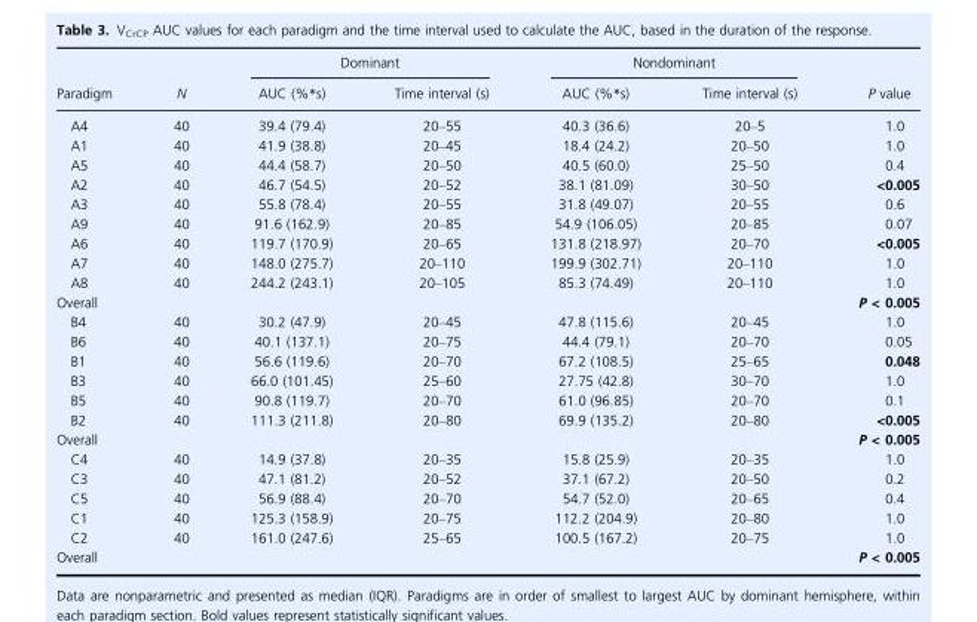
<table><thead><tr><td rowspan="2">Paradigm</td><td rowspan="2">N</td><td colspan="2">Dominant</td><td colspan="2">Nondominant</td><td rowspan="2">P value</td></tr><tr><td>AUC (%*s)</td><td>Time interval (s)</td><td>AUC (%*s)</td><td>Time interval (s)</td></tr></thead><tbody><tr><td>A4</td><td>40</td><td>39.4 (79.4)</td><td>20–55</td><td>40.3 (36.6)</td><td>20–5</td><td>1.0</td></tr><tr><td>A1</td><td>40</td><td>41.9 (38.8)</td><td>20–45</td><td>18.4 (24.2)</td><td>20–50</td><td>1.0</td></tr><tr><td>A5</td><td>40</td><td>44.4 (58.7)</td><td>20–50</td><td>40.5 (60.0)</td><td>25–50</td><td>0.4</td></tr><tr><td>A2</td><td>40</td><td>46.7 (54.5)</td><td>20–52</td><td>38.1 (81.09)</td><td>30–50</td><td>&lt;0.005</td></tr><tr><td>A3</td><td>40</td><td>55.8 (78.4)</td><td>20–55</td><td>31.8 (49.07)</td><td>20–55</td><td>0.6</td></tr><tr><td>A9</td><td>40</td><td>91.6 (162.9)</td><td>20–85</td><td>54.9 (106.05)</td><td>20–85</td><td>0.07</td></tr><tr><td>A6</td><td>40</td><td>119.7 (170.9)</td><td>20–65</td><td>131.8 (218.97)</td><td>20–70</td><td>&lt;0.005</td></tr><tr><td>A7</td><td>40</td><td>148.0 (275.7)</td><td>20–110</td><td>199.9 (302.71)</td><td>20–110</td><td>1.0</td></tr><tr><td>A8</td><td>40</td><td>244.2 (243.1)</td><td>20–105</td><td>85.3 (74.49)</td><td>20–110</td><td>1.0</td></tr><tr><td>Overall</td><td></td><td></td><td></td><td></td><td></td><td>P &lt; 0.005</td></tr><tr><td>B4</td><td>40</td><td>30.2 (47.9)</td><td>20–45</td><td>47.8 (115.6)</td><td>20–45</td><td>1.0</td></tr><tr><td>B6</td><td>40</td><td>40.1 (137.1)</td><td>20–75</td><td>44.4 (79.1)</td><td>20–70</td><td>0.05</td></tr><tr><td>B1</td><td>40</td><td>56.6 (119.6)</td><td>20–70</td><td>67.2 (108.5)</td><td>25–65</td><td>0.048</td></tr><tr><td>B3</td><td>40</td><td>66.0 (101.45)</td><td>25–60</td><td>27.75 (42.8)</td><td>30–70</td><td>1.0</td></tr><tr><td>B5</td><td>40</td><td>90.8 (119.7)</td><td>20–70</td><td>61.0 (96.85)</td><td>20–70</td><td>0.1</td></tr><tr><td>B2</td><td>40</td><td>111.3 (211.8)</td><td>20–80</td><td>69.9 (135.2)</td><td>20–80</td><td>&lt;0.005</td></tr><tr><td>Overall</td><td></td><td></td><td></td><td></td><td></td><td>P &lt; 0.005</td></tr><tr><td>C4</td><td>40</td><td>14.9 (37.8)</td><td>20–35</td><td>15.8 (25.9)</td><td>20–35</td><td>1.0</td></tr><tr><td>C3</td><td>40</td><td>47.1 (81.2)</td><td>20–52</td><td>37.1 (67.2)</td><td>20–50</td><td>0.2</td></tr><tr><td>C5</td><td>40</td><td>56.9 (88.4)</td><td>20–70</td><td>54.7 (52.0)</td><td>20–65</td><td>0.4</td></tr><tr><td>C1</td><td>40</td><td>125.3 (158.9)</td><td>20–75</td><td>112.2 (204.9)</td><td>20–80</td><td>1.0</td></tr><tr><td>C2</td><td>40</td><td>161.0 (247.6)</td><td>25–65</td><td>100.5 (167.2)</td><td>20–75</td><td>1.0</td></tr><tr><td>Overall</td><td></td><td></td><td></td><td></td><td></td><td>P &lt; 0.005</td></tr></tbody></table>